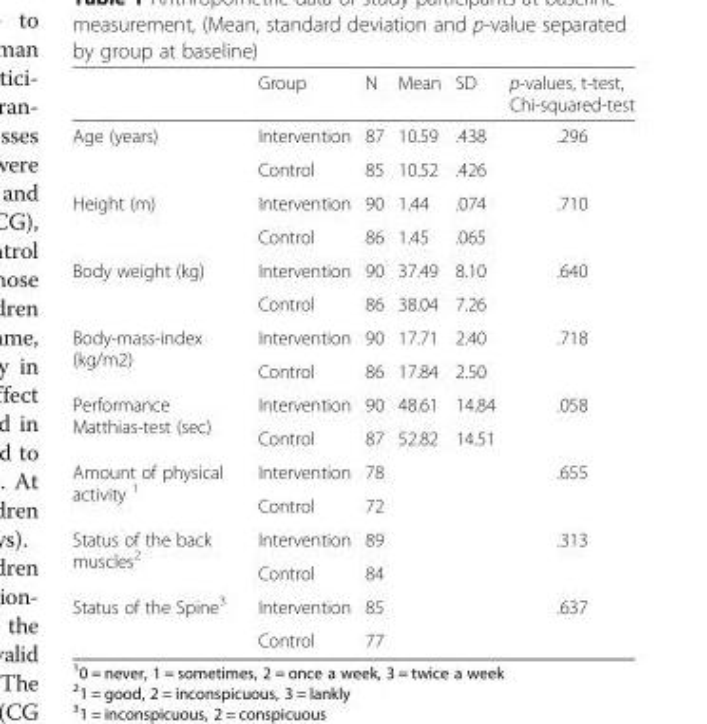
<table><thead><tr><td></td><td>Group</td><td>N</td><td>Mean</td><td>SD</td><td>p-values, t-test, Chi-squared-test</td></tr></thead><tbody><tr><td rowspan="2">Age (years)</td><td>Intervention</td><td>87</td><td>10.59</td><td>.438</td><td rowspan="2">.296</td></tr><tr><td>Control</td><td>85</td><td>10.52</td><td>.426</td></tr><tr><td rowspan="2">Height (m)</td><td>Intervention</td><td>90</td><td>1.44</td><td>.074</td><td rowspan="2">.710</td></tr><tr><td>Control</td><td>86</td><td>1.45</td><td>.065</td></tr><tr><td rowspan="2">Body weight (kg)</td><td>Intervention</td><td>90</td><td>37.49</td><td>8.10</td><td rowspan="2">.640</td></tr><tr><td>Control</td><td>86</td><td>38.04</td><td>7.26</td></tr><tr><td rowspan="2">Body-mass-index (kg/m2)</td><td>Intervention</td><td>90</td><td>17.71</td><td>2.40</td><td rowspan="2">.718</td></tr><tr><td>Control</td><td>86</td><td>17.84</td><td>2.50</td></tr><tr><td rowspan="2">Performance Matthias-test (sec)</td><td>Intervention</td><td>90</td><td>48.61</td><td>14.84</td><td rowspan="2">.058</td></tr><tr><td>Control</td><td>87</td><td>52.82</td><td>14.51</td></tr><tr><td rowspan="2">Amount of physical activity <sup>1</sup></td><td>Intervention</td><td>78</td><td></td><td></td><td rowspan="2">.655</td></tr><tr><td>Control</td><td>72</td><td></td><td></td></tr><tr><td rowspan="2">Status of the back muscles<sup>2</sup></td><td>Intervention</td><td>89</td><td></td><td></td><td rowspan="2">.313</td></tr><tr><td>Control</td><td>84</td><td></td><td></td></tr><tr><td rowspan="2">Status of the Spine<sup>3</sup></td><td>Intervention</td><td>85</td><td></td><td></td><td rowspan="2">.637</td></tr><tr><td>Control</td><td>77</td><td></td><td></td></tr></tbody></table>